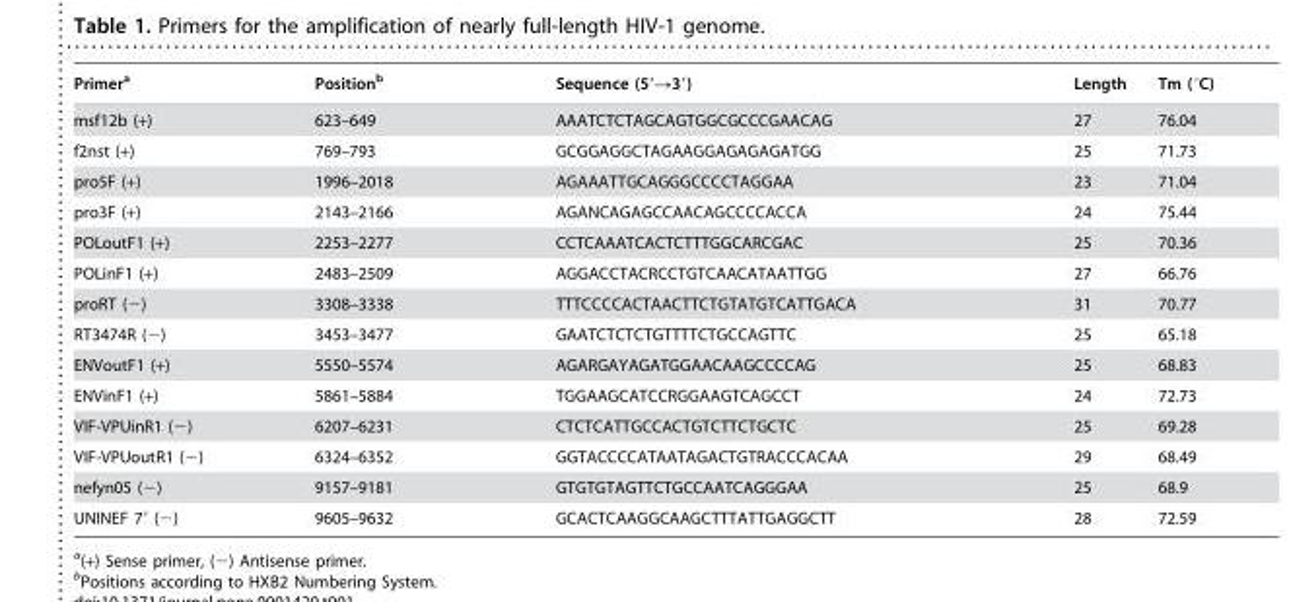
<table><thead><tr><td>Primer<sup>a</sup></td><td>Position<sup>b</sup></td><td>Sequence (5′→3′)</td><td>Length</td><td>Tm (°C)</td></tr></thead><tbody><tr><td>msf12b (+)</td><td>623–649</td><td>AAATCTCTAGCAGTGGCGCCCGAACAG</td><td>27</td><td>76.04</td></tr><tr><td>f2nst (+)</td><td>769–793</td><td>GCGGAGGCTAGAAGGAGAGAGATGG</td><td>25</td><td>71.73</td></tr><tr><td>pro5F (+)</td><td>1996–2018</td><td>AGAAATTGCAGGGCCCCTAGGAA</td><td>23</td><td>71.04</td></tr><tr><td>pro3F (+)</td><td>2143–2166</td><td>AGANCAGAGCCAACAGCCCCACCA</td><td>24</td><td>75.44</td></tr><tr><td>POLoutF1 (+)</td><td>2253–2277</td><td>CCTCAAATCACTCTTTGGCARCGAC</td><td>25</td><td>70.36</td></tr><tr><td>POLinF1 (+)</td><td>2483–2509</td><td>AGGACCTACRCCTGTCAACATAATTGG</td><td>27</td><td>66.76</td></tr><tr><td>proRT (−)</td><td>3308–3338</td><td>TTTCCCCACTAACTTCTGTATGTCATTGACA</td><td>31</td><td>70.77</td></tr><tr><td>RT3474R (−)</td><td>3453–3477</td><td>GAATCTCTCTGTTTTCTGCCAGTTC</td><td>25</td><td>65.18</td></tr><tr><td>ENVoutF1 (+)</td><td>5550–5574</td><td>AGARGAYAGATGGAACAAGCCCCAG</td><td>25</td><td>68.83</td></tr><tr><td>ENVinF1 (+)</td><td>5861–5884</td><td>TGGAAGCATCCRGGAAGTCAGCCT</td><td>24</td><td>72.73</td></tr><tr><td>VIF-VPUinR1 (−)</td><td>6207–6231</td><td>CTCTCATTGCCACTGTCTTCTGCTC</td><td>25</td><td>69.28</td></tr><tr><td>VIF-VPUoutR1 (−)</td><td>6324–6352</td><td>GGTACCCCATAATAGACTGTRACCCACAA</td><td>29</td><td>68.49</td></tr><tr><td>nefyn05 (−)</td><td>9157–9181</td><td>GTGTGTAGTTCTGCCAATCAGGGAA</td><td>25</td><td>68.9</td></tr><tr><td>UNINEF 7′ (−)</td><td>9605–9632</td><td>GCACTCAAGGCAAGCTTTATTGAGGCTT</td><td>28</td><td>72.59</td></tr></tbody></table>